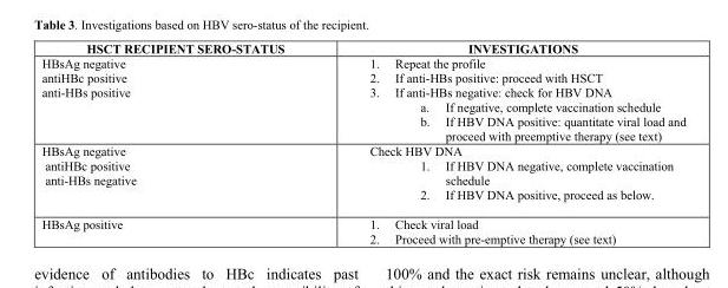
<table><thead><tr><td>HSCT RECIPIENT SERO-STATUS</td><td>INVESTIGATIONS</td></tr></thead><tbody><tr><td>HBsAg negative antiHBc positive anti-HBs positive</td><td>1. Repeat the profile 2. If anti-HBs positive: proceed with HSCT 3. If anti-HBs negative: check for HBV DNA a. If negative, complete vaccination schedule b. If HBV DNA positive: quantitate viral load and proceed with preemptive therapy (see text)</td></tr><tr><td>HBsAg negative antiHBc positive anti-HBs negative</td><td>Check HBV DNA 1. If HBV DNA negative, complete vaccination schedule 2. If HBV DNA positive, proceed as below.</td></tr><tr><td>HBsAg positive</td><td>1. Check viral load 2. Proceed with pre-emptive therapy (see text)</td></tr></tbody></table>